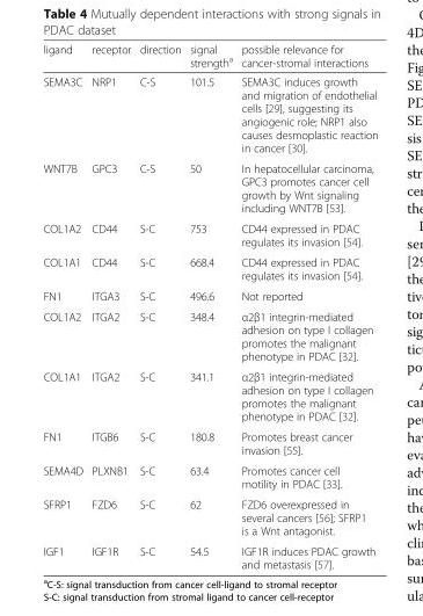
<table><thead><tr><td>ligand</td><td>receptor</td><td>direction</td><td>signal strength<sup>a</sup></td><td>possible relevance for cancer-stromal interactions</td></tr></thead><tbody><tr><td>SEMA3C</td><td>NRP1</td><td>C-S</td><td>101.5</td><td>SEMA3C induces growth and migration of endothelial cells [29], suggesting its angiogenic role; NRP1 also causes desmoplastic reaction in cancer [30].</td></tr><tr><td>WNT7B</td><td>GPC3</td><td>C-S</td><td>50</td><td>In hepatocellular carcinoma, GPC3 promotes cancer cell growth by Wnt signaling including WNT7B [53].</td></tr><tr><td>COL1A2</td><td>CD44</td><td>S-C</td><td>753</td><td>CD44 expressed in PDAC regulates its invasion [54].</td></tr><tr><td>COL1A1</td><td>CD44</td><td>S-C</td><td>668.4</td><td>CD44 expressed in PDAC regulates its invasion [54].</td></tr><tr><td>FN1</td><td>ITGA3</td><td>S-C</td><td>496.6</td><td>Not reported</td></tr><tr><td>COL1A2</td><td>ITGA2</td><td>S-C</td><td>348.4</td><td>α2β1 integrin-mediated adhesion on type I collagen promotes the malignant phenotype in PDAC [32].</td></tr><tr><td>COL1A1</td><td>ITGA2</td><td>S-C</td><td>341.1</td><td>α2β1 integrin-mediated adhesion on type I collagen promotes the malignant phenotype in PDAC [32].</td></tr><tr><td>FN1</td><td>ITGB6</td><td>S-C</td><td>180.8</td><td>Promotes breast cancer invasion [55].</td></tr><tr><td>SEMA4D</td><td>PLXNB1</td><td>S-C</td><td>63.4</td><td>Promotes cancer cell motility in PDAC [33].</td></tr><tr><td>SFRP1</td><td>FZD6</td><td>S-C</td><td>62</td><td>FZD6 overexpressed in several cancers [56]; SFRP1 is a Wnt antagonist.</td></tr><tr><td>IGF1</td><td>IGF1R</td><td>S-C</td><td>54.5</td><td>IGF1R induces PDAC growth and metastasis [57].</td></tr></tbody></table>